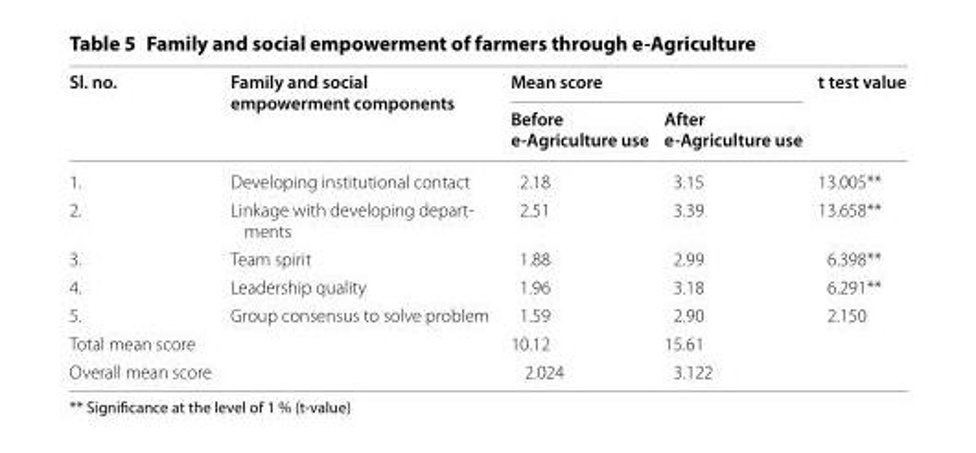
<table><thead><tr><td rowspan="2">Sl. no.</td><td rowspan="2">Family and social empowerment components</td><td colspan="2">Mean score</td><td rowspan="2">t test value</td></tr><tr><td>Before e‑Agriculture use</td><td>After e‑Agriculture use</td></tr></thead><tbody><tr><td>1.</td><td>Developing institutional contact</td><td>2.18</td><td>3.15</td><td>13.005**</td></tr><tr><td>2.</td><td>Linkage with developing depart- ments</td><td>2.51</td><td>3.39</td><td>13.658**</td></tr><tr><td>3.</td><td>Team spirit</td><td>1.88</td><td>2.99</td><td>6.398**</td></tr><tr><td>4.</td><td>Leadership quality</td><td>1.96</td><td>3.18</td><td>6.291**</td></tr><tr><td>5.</td><td>Group consensus to solve problem</td><td>1.59</td><td>2.90</td><td>2.150</td></tr><tr><td colspan="2">Total mean score</td><td>10.12</td><td>15.61</td><td></td></tr><tr><td colspan="2">Overall mean score</td><td>2.024</td><td>3.122</td><td></td></tr></tbody></table>